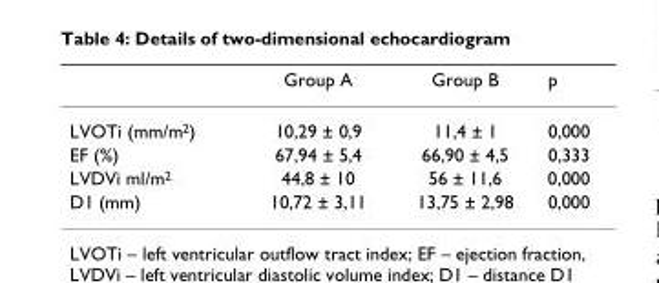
<table><thead><tr><td></td><td>Group A</td><td>Group B</td><td>p</td></tr></thead><tbody><tr><td>LVOTi (mm/m<sup>2</sup>)</td><td>10,29 ± 0,9</td><td>11,4 ± 1</td><td>0,000</td></tr><tr><td>EF (%)</td><td>67,94 ± 5,4</td><td>66,90 ± 4,5</td><td>0,333</td></tr><tr><td>LVDVi ml/m<sup>2</sup></td><td>44,8 ± 10</td><td>56 ± 11,6</td><td>0,000</td></tr><tr><td>D1 (mm)</td><td>10,72 ± 3,11</td><td>13,75 ± 2,98</td><td>0,000</td></tr></tbody></table>